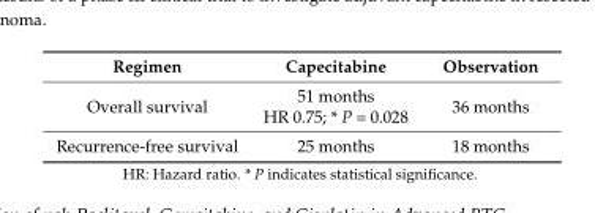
<table><thead><tr><td>Regimen</td><td>Capecitabine</td><td>Observation</td></tr></thead><tbody><tr><td>Overall survival</td><td>51 months HR 0.75; * P = 0.028</td><td>36 months</td></tr><tr><td>Recurrence-free survival</td><td>25 months</td><td>18 months</td></tr></tbody></table>